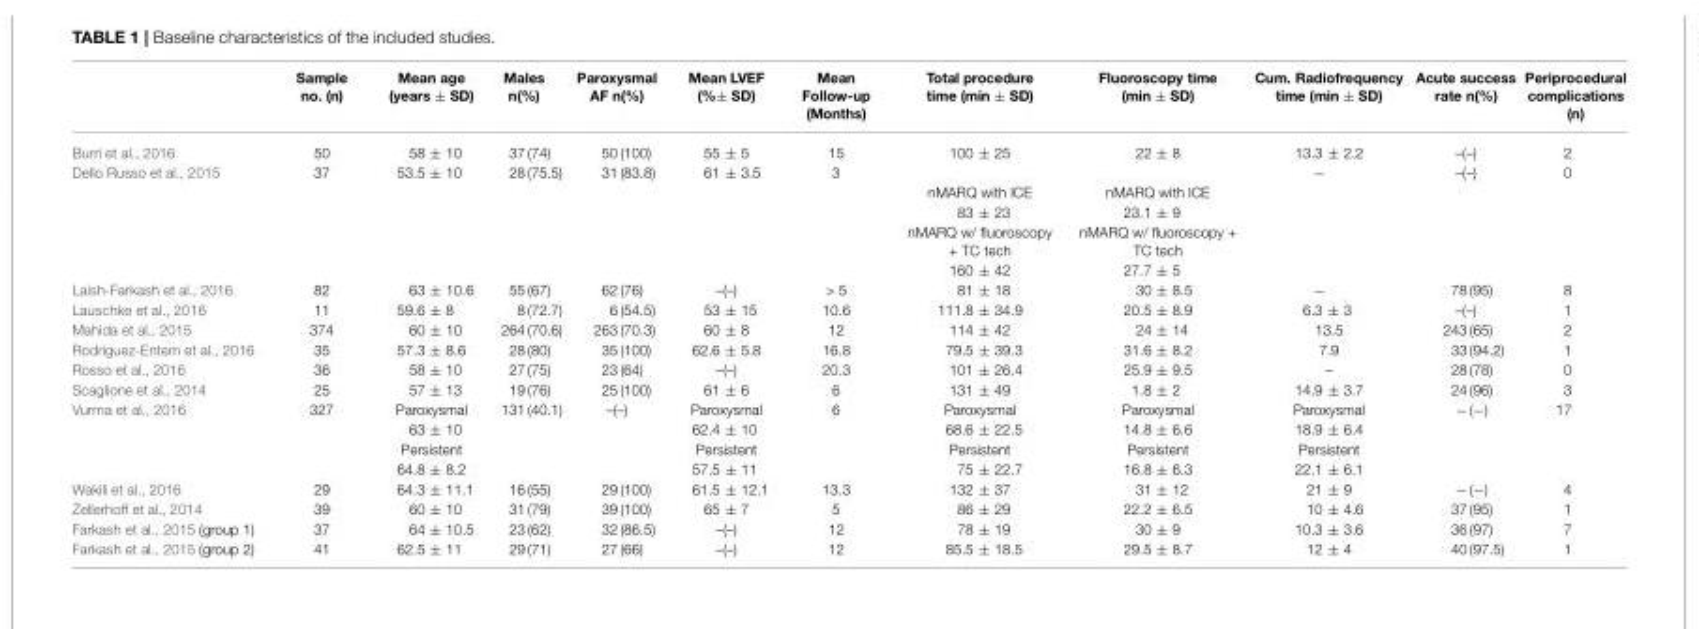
<table><thead><tr><td></td><td>Sample no. (n)</td><td>Mean age (years ± SD)</td><td>Males n(%)</td><td>Paroxysmal AF n(%)</td><td>Mean LVEF (%± SD)</td><td>Mean Follow-up (Months)</td><td>Total procedure time (min ± SD)</td><td>Fluoroscopy time (min ± SD)</td><td>Cum. Radiofrequency time (min ± SD)</td><td>Acute success rate n(%)</td><td>Periprocedural complications (n)</td></tr></thead><tbody><tr><td>Burri et al., 2016</td><td>50</td><td>58 ± 10</td><td>37 (74)</td><td>50 (100)</td><td>55 ± 5</td><td>15</td><td>100 ± 25</td><td>22 ± 8</td><td>13.3 ± 2.2</td><td>–(–)</td><td>2</td></tr><tr><td rowspan="5">Dello Russo et al., 2015</td><td>37</td><td>53.5 ± 10</td><td>28 (75.5)</td><td>31 (83.8)</td><td>61 ± 3.5</td><td>3</td><td></td><td></td><td>−</td><td>–(–)</td><td>0</td></tr><tr><td></td><td></td><td></td><td></td><td></td><td></td><td>nMARQ with ICE</td><td>nMARQ with ICE</td><td></td><td></td><td></td></tr><tr><td></td><td></td><td></td><td></td><td></td><td></td><td>83 ± 23</td><td>23.1 ± 9</td><td></td><td></td><td></td></tr><tr><td></td><td></td><td></td><td></td><td></td><td></td><td>nMARQ w/ fluoroscopy + TC tech</td><td>nMARQ w/ fluoroscopy + TC tech</td><td></td><td></td><td></td></tr><tr><td></td><td></td><td></td><td></td><td></td><td></td><td>160 ± 42</td><td>27.7 ± 5</td><td></td><td></td><td></td></tr><tr><td>Laish-Farkash et al., 2016</td><td>82</td><td>63 ± 10.6</td><td>55 (67)</td><td>62 (76)</td><td>–(–)</td><td>&gt; 5</td><td>81 ± 18</td><td>30 ± 8.5</td><td>−</td><td>78 (95)</td><td>8</td></tr><tr><td>Lauschke et al., 2016</td><td>11</td><td>59.6 ± 8</td><td>8 (72.7)</td><td>6 (54.5)</td><td>53 ± 15</td><td>10.6</td><td>111.8 ± 34.9</td><td>20.5 ± 8.9</td><td>6.3 ± 3</td><td>–(–)</td><td>1</td></tr><tr><td>Mahida et al., 2015</td><td>374</td><td>60 ± 10</td><td>264 (70.6)</td><td>263 (70.3)</td><td>60 ± 8</td><td>12</td><td>114 ± 42</td><td>24 ± 14</td><td>13.5</td><td>243 (65)</td><td>2</td></tr><tr><td>Rodriguez-Entem et al., 2016</td><td>35</td><td>57.3 ± 8.6</td><td>28 (80)</td><td>35 (100)</td><td>62.6 ± 5.8</td><td>16.8</td><td>79.5 ± 39.3</td><td>31.6 ± 8.2</td><td>7.9</td><td>33 (94.2)</td><td>1</td></tr><tr><td>Rosso et al., 2016</td><td>36</td><td>58 ± 10</td><td>27 (75)</td><td>23 (64)</td><td>–(–)</td><td>20.3</td><td>101 ± 26.4</td><td>25.9 ± 9.5</td><td>–</td><td>28 (78)</td><td>0</td></tr><tr><td>Scaglione et al., 2014</td><td>25</td><td>57 ± 13</td><td>19 (76)</td><td>25 (100)</td><td>61 ± 6</td><td>6</td><td>131 ± 49</td><td>1.8 ± 2</td><td>14.9 ± 3.7</td><td>24 (96)</td><td>3</td></tr><tr><td rowspan="4">Vurma et al., 2016</td><td>327</td><td>Paroxysmal</td><td>131 (40.1)</td><td>–(–)</td><td>Paroxysmal</td><td>6</td><td>Paroxysmal</td><td>Paroxysmal</td><td>Paroxysmal</td><td>− (−)</td><td>17</td></tr><tr><td></td><td>63 ± 10</td><td></td><td></td><td>62.4 ± 10</td><td></td><td>68.6 ± 22.5</td><td>14.8 ± 6.6</td><td>18.9 ± 6.4</td><td></td><td></td></tr><tr><td></td><td>Persistent</td><td></td><td></td><td>Persistent</td><td></td><td>Persistent</td><td>Persistent</td><td>Persistent</td><td></td><td></td></tr><tr><td></td><td>64.8 ± 8.2</td><td></td><td></td><td>57.5 ± 11</td><td></td><td>75 ± 22.7</td><td>16.8 ± 6.3</td><td>22.1 ± 6.1</td><td></td><td></td></tr><tr><td>Wakili et al., 2016</td><td>29</td><td>64.3 ± 11.1</td><td>16 (55)</td><td>29 (100)</td><td>61.5 ± 12.1</td><td>13.3</td><td>132 ± 37</td><td>31 ± 12</td><td>21 ± 9</td><td>− (−)</td><td>4</td></tr><tr><td>Zellerhoff et al., 2014</td><td>39</td><td>60 ± 10</td><td>31 (79)</td><td>39 (100)</td><td>65 ± 7</td><td>5</td><td>86 ± 29</td><td>22.2 ± 6.5</td><td>10 ± 4.6</td><td>37 (95)</td><td>1</td></tr><tr><td>Farkash et al., 2015 (group 1)</td><td>37</td><td>64 ± 10.5</td><td>23 (62)</td><td>32 (86.5)</td><td>–(–)</td><td>12</td><td>78 ± 19</td><td>30 ± 9</td><td>10.3 ± 3.6</td><td>36 (97)</td><td>7</td></tr><tr><td>Farkash et al., 2015 (group 2)</td><td>41</td><td>62.5 ± 11</td><td>29 (71)</td><td>27 (66)</td><td>–(–)</td><td>12</td><td>85.5 ± 18.5</td><td>29.5 ± 8.7</td><td>12 ± 4</td><td>40 (97.5)</td><td>1</td></tr></tbody></table>